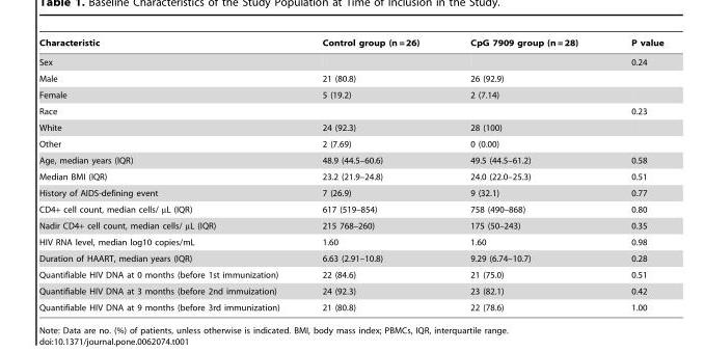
<table><thead><tr><td>Characteristic</td><td>Control group (n = 26)</td><td>CpG 7909 group (n = 28)</td><td>P value</td></tr></thead><tbody><tr><td>Sex</td><td></td><td></td><td>0.24</td></tr><tr><td>Male</td><td>21 (80.8)</td><td>26 (92.9)</td><td></td></tr><tr><td>Female</td><td>5 (19.2)</td><td>2 (7.14)</td><td></td></tr><tr><td>Race</td><td></td><td></td><td>0.23</td></tr><tr><td>White</td><td>24 (92.3)</td><td>28 (100)</td><td></td></tr><tr><td>Other</td><td>2 (7.69)</td><td>0 (0.00)</td><td></td></tr><tr><td>Age, median years (IQR)</td><td>48.9 (44.5–60.6)</td><td>49.5 (44.5–61.2)</td><td>0.58</td></tr><tr><td>Median BMI (IQR)</td><td>23.2 (21.9–24.8)</td><td>24.0 (22.0–25.3)</td><td>0.51</td></tr><tr><td>History of AIDS-defining event</td><td>7 (26.9)</td><td>9 (32.1)</td><td>0.77</td></tr><tr><td>CD4+ cell count, median cells/ µL (IQR)</td><td>617 (519–854)</td><td>758 (490–868)</td><td>0.80</td></tr><tr><td>Nadir CD4+ cell count, median cells/ µL (IQR)</td><td>215 768–260)</td><td>175 (50–243)</td><td>0.35</td></tr><tr><td>HIV RNA level, median log10 copies/mL</td><td>1.60</td><td>1.60</td><td>0.98</td></tr><tr><td>Duration of HAART, median years (IQR)</td><td>6.63 (2.91–10.8)</td><td>9.29 (6.74–10.7)</td><td>0.28</td></tr><tr><td>Quantifiable HIV DNA at 0 months (before 1st immunization)</td><td>22 (84.6)</td><td>21 (75.0)</td><td>0.51</td></tr><tr><td>Quantifiable HIV DNA at 3 months (before 2nd immuization)</td><td>24 (92.3)</td><td>23 (82.1)</td><td>0.42</td></tr><tr><td>Quantifiable HIV DNA at 9 months (before 3rd immunization)</td><td>21 (80.8)</td><td>22 (78.6)</td><td>1.00</td></tr></tbody></table>